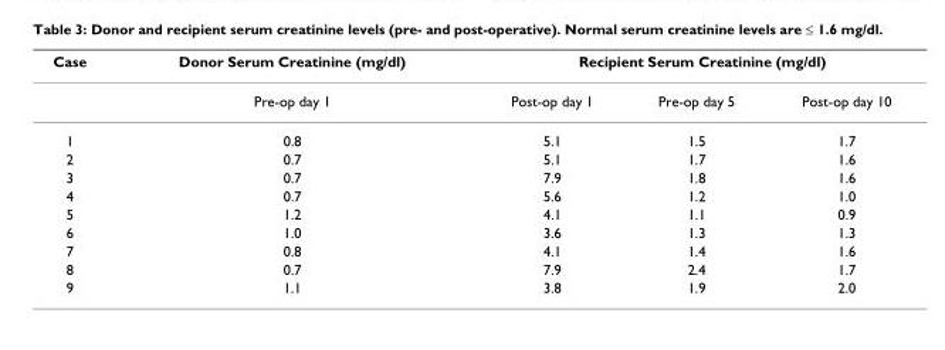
<table><thead><tr><td rowspan="2">Case</td><td rowspan="2">Donor Serum Creatinine (mg/dl) Pre-op day 1</td><td colspan="3">Recipient Serum Creatinine (mg/dl)</td></tr><tr><td>Post-op day 1</td><td>Pre-op day 5</td><td>Post-op day 10</td></tr></thead><tbody><tr><td>1</td><td>0.8</td><td>5.1</td><td>1.5</td><td>1.7</td></tr><tr><td>2</td><td>0.7</td><td>5.1</td><td>1.7</td><td>1.6</td></tr><tr><td>3</td><td>0.7</td><td>7.9</td><td>1.8</td><td>1.6</td></tr><tr><td>4</td><td>0.7</td><td>5.6</td><td>1.2</td><td>1.0</td></tr><tr><td>5</td><td>1.2</td><td>4.1</td><td>1.1</td><td>0.9</td></tr><tr><td>6</td><td>1.0</td><td>3.6</td><td>1.3</td><td>1.3</td></tr><tr><td>7</td><td>0.8</td><td>4.1</td><td>1.4</td><td>1.6</td></tr><tr><td>8</td><td>0.7</td><td>7.9</td><td>2.4</td><td>1.7</td></tr><tr><td>9</td><td>1.1</td><td>3.8</td><td>1.9</td><td>2.0</td></tr></tbody></table>